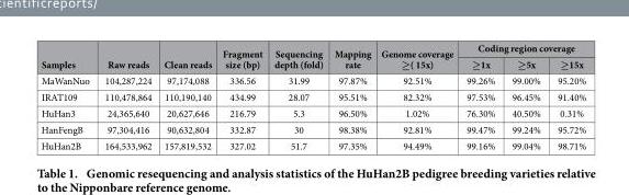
<table><thead><tr><td rowspan="2">Samples</td><td rowspan="2">Raw reads</td><td rowspan="2">Clean reads</td><td rowspan="2">Fragment size (bp)</td><td rowspan="2">Sequencing depth (fold)</td><td rowspan="2">Mapping rate</td><td rowspan="2">Genome coverage ≥( 15x)</td><td colspan="3">Coding region coverage</td></tr><tr><td>≥1x</td><td>≥5x</td><td>≥15x</td></tr></thead><tbody><tr><td>MaWanNuo</td><td>104,287,224</td><td>97,174,088</td><td>336.56</td><td>31.99</td><td>97.87%</td><td>92.51%</td><td>99.26%</td><td>99.00%</td><td>95.20%</td></tr><tr><td>IRAT109</td><td>110,478,864</td><td>110,190,140</td><td>434.99</td><td>28.07</td><td>95.51%</td><td>82.32%</td><td>97.53%</td><td>96.45%</td><td>91.40%</td></tr><tr><td>HuHan3</td><td>24,365,640</td><td>20,627,646</td><td>216.79</td><td>5.3</td><td>96.50%</td><td>1.02%</td><td>76.30%</td><td>40.50%</td><td>0.31%</td></tr><tr><td>HanFengB</td><td>97,304,416</td><td>90,632,804</td><td>332.87</td><td>30</td><td>98.38%</td><td>92.81%</td><td>99.47%</td><td>99.24%</td><td>95.72%</td></tr><tr><td>HuHan2B</td><td>164,533,962</td><td>157,819,532</td><td>327.02</td><td>51.7</td><td>97.35%</td><td>94.49%</td><td>99.16%</td><td>99.04%</td><td>98.71%</td></tr></tbody></table>